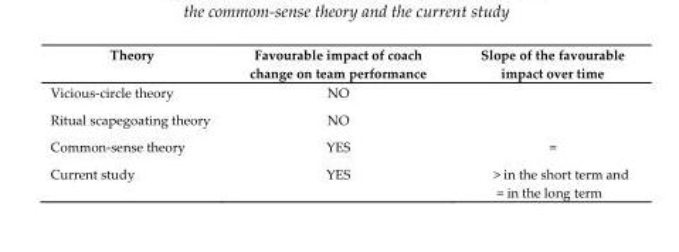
<table><thead><tr><td>Theory</td><td>Favourable impact of coach change on team performance</td><td>Slope of the favourable impact over time</td></tr></thead><tbody><tr><td>Vicious-circle theory</td><td>NO</td><td></td></tr><tr><td>Ritual scapegoating theory</td><td>NO</td><td></td></tr><tr><td>Common-sense theory</td><td>YES</td><td>=</td></tr><tr><td>Current study</td><td>YES</td><td>&gt; in the short term and = in the long term</td></tr></tbody></table>